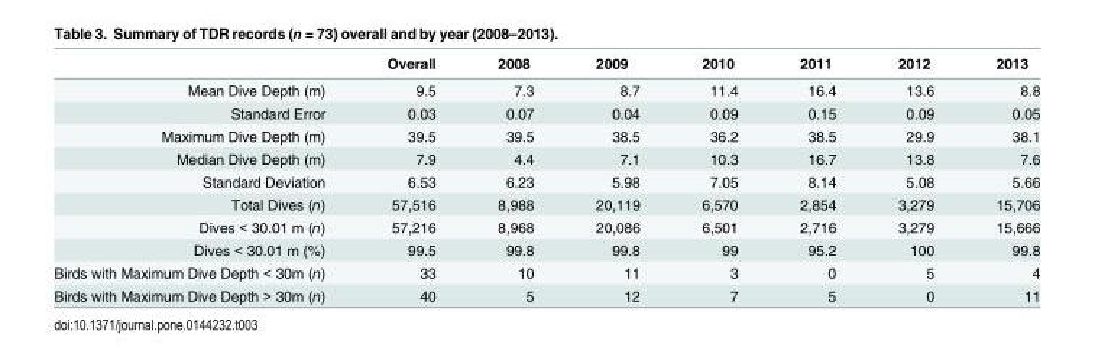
<table><thead><tr><td></td><td>Overall</td><td>2008</td><td>2009</td><td>2010</td><td>2011</td><td>2012</td><td>2013</td></tr></thead><tbody><tr><td>Mean Dive Depth (m)</td><td>9.5</td><td>7.3</td><td>8.7</td><td>11.4</td><td>16.4</td><td>13.6</td><td>8.8</td></tr><tr><td>Standard Error</td><td>0.03</td><td>0.07</td><td>0.04</td><td>0.09</td><td>0.15</td><td>0.09</td><td>0.05</td></tr><tr><td>Maximum Dive Depth (m)</td><td>39.5</td><td>39.5</td><td>38.5</td><td>36.2</td><td>38.5</td><td>29.9</td><td>38.1</td></tr><tr><td>Median Dive Depth (m)</td><td>7.9</td><td>4.4</td><td>7.1</td><td>10.3</td><td>16.7</td><td>13.8</td><td>7.6</td></tr><tr><td>Standard Deviation</td><td>6.53</td><td>6.23</td><td>5.98</td><td>7.05</td><td>8.14</td><td>5.08</td><td>5.66</td></tr><tr><td>Total Dives (n)</td><td>57,516</td><td>8,988</td><td>20,119</td><td>6,570</td><td>2,854</td><td>3,279</td><td>15,706</td></tr><tr><td>Dives &lt; 30.01 m (n)</td><td>57,216</td><td>8,968</td><td>20,086</td><td>6,501</td><td>2,716</td><td>3,279</td><td>15,666</td></tr><tr><td>Dives &lt; 30.01 m (%)</td><td>99.5</td><td>99.8</td><td>99.8</td><td>99</td><td>95.2</td><td>100</td><td>99.8</td></tr><tr><td>Birds with Maximum Dive Depth &lt; 30m (n)</td><td>33</td><td>10</td><td>11</td><td>3</td><td>0</td><td>5</td><td>4</td></tr><tr><td>Birds with Maximum Dive Depth &gt; 30m (n)</td><td>40</td><td>5</td><td>12</td><td>7</td><td>5</td><td>0</td><td>11</td></tr></tbody></table>